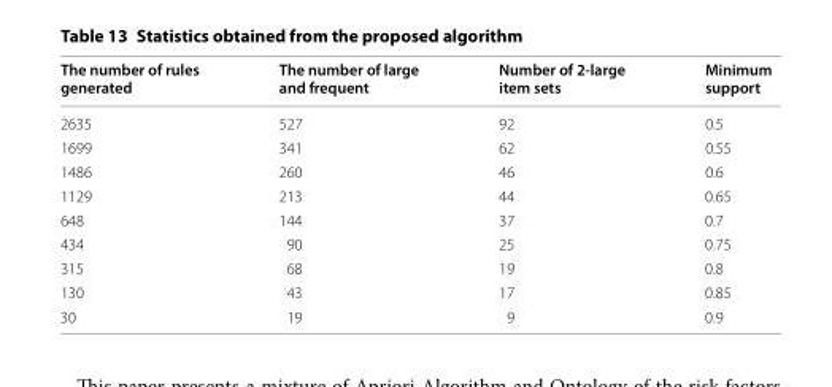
<table><thead><tr><td>The number of rules generated</td><td>The number of large and frequent</td><td>Number of 2-large item sets</td><td>Minimum support</td></tr></thead><tbody><tr><td>2635</td><td>527</td><td>92</td><td>0.5</td></tr><tr><td>1699</td><td>341</td><td>62</td><td>0.55</td></tr><tr><td>1486</td><td>260</td><td>46</td><td>0.6</td></tr><tr><td>1129</td><td>213</td><td>44</td><td>0.65</td></tr><tr><td>648</td><td>144</td><td>37</td><td>0.7</td></tr><tr><td>434</td><td>90</td><td>25</td><td>0.75</td></tr><tr><td>315</td><td>68</td><td>19</td><td>0.8</td></tr><tr><td>130</td><td>43</td><td>17</td><td>0.85</td></tr><tr><td>30</td><td>19</td><td>9</td><td>0.9</td></tr></tbody></table>